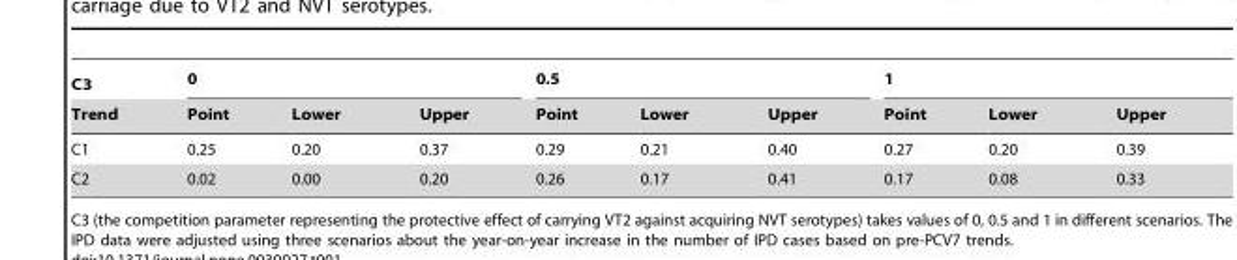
<table><thead><tr><td rowspan="2">C3 Trend</td><td colspan="3">0</td><td colspan="3">0.5</td><td colspan="3">1</td></tr><tr><td>Point</td><td>Lower</td><td>Upper</td><td>Point</td><td>Lower</td><td>Upper</td><td>Point</td><td>Lower</td><td>Upper</td></tr></thead><tbody><tr><td>C1</td><td>0.25</td><td>0.20</td><td>0.37</td><td>0.29</td><td>0.21</td><td>0.40</td><td>0.27</td><td>0.20</td><td>0.39</td></tr><tr><td>C2</td><td>0.02</td><td>0.00</td><td>0.20</td><td>0.26</td><td>0.17</td><td>0.41</td><td>0.17</td><td>0.08</td><td>0.33</td></tr></tbody></table>